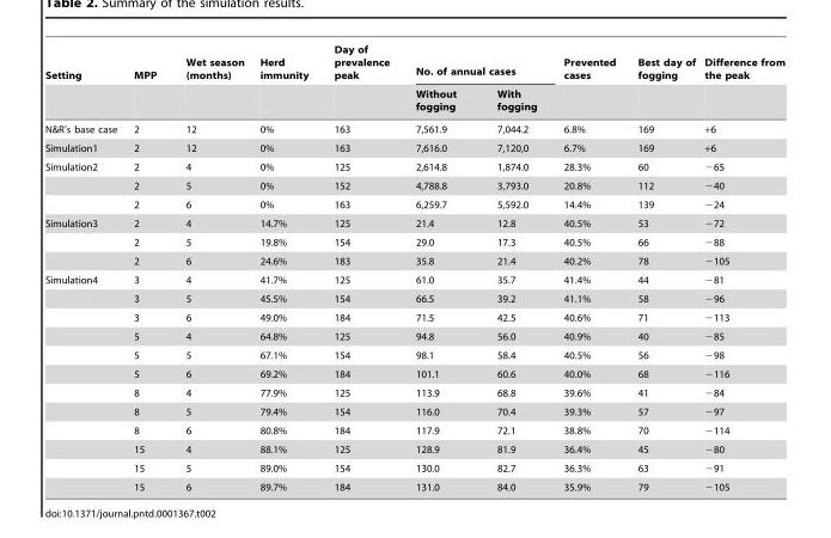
<table><thead><tr><td rowspan="2">Setting</td><td rowspan="2">MPP</td><td rowspan="2">Wet season (months)</td><td rowspan="2">Herd immunity</td><td rowspan="2">Day of prevalence peak</td><td colspan="2">No. of annual cases</td><td rowspan="2">Prevented cases</td><td rowspan="2">Best day of fogging</td><td rowspan="2">Difference from the peak</td></tr><tr><td>Without fogging</td><td>With fogging</td></tr></thead><tbody><tr><td>N&amp;R’s base case</td><td>2</td><td>12</td><td>0%</td><td>163</td><td>7,561.9</td><td>7,044.2</td><td>6.8%</td><td>169</td><td>+6</td></tr><tr><td>Simulation1</td><td>2</td><td>12</td><td>0%</td><td>163</td><td>7,616.0</td><td>7,120,0</td><td>6.7%</td><td>169</td><td>+6</td></tr><tr><td rowspan="3">Simulation2</td><td>2</td><td>4</td><td>0%</td><td>125</td><td>2,614.8</td><td>1,874.0</td><td>28.3%</td><td>60</td><td>−65</td></tr><tr><td>2</td><td>5</td><td>0%</td><td>152</td><td>4,788.8</td><td>3,793.0</td><td>20.8%</td><td>112</td><td>−40</td></tr><tr><td>2</td><td>6</td><td>0%</td><td>163</td><td>6,259.7</td><td>5,592.0</td><td>14.4%</td><td>139</td><td>−24</td></tr><tr><td rowspan="3">Simulation3</td><td>2</td><td>4</td><td>14.7%</td><td>125</td><td>21.4</td><td>12.8</td><td>40.5%</td><td>53</td><td>−72</td></tr><tr><td>2</td><td>5</td><td>19.8%</td><td>154</td><td>29.0</td><td>17.3</td><td>40.5%</td><td>66</td><td>−88</td></tr><tr><td>2</td><td>6</td><td>24.6%</td><td>183</td><td>35.8</td><td>21.4</td><td>40.2%</td><td>78</td><td>−105</td></tr><tr><td rowspan="12">Simulation4</td><td>3</td><td>4</td><td>41.7%</td><td>125</td><td>61.0</td><td>35.7</td><td>41.4%</td><td>44</td><td>−81</td></tr><tr><td>3</td><td>5</td><td>45.5%</td><td>154</td><td>66.5</td><td>39.2</td><td>41.1%</td><td>58</td><td>−96</td></tr><tr><td>3</td><td>6</td><td>49.0%</td><td>184</td><td>71.5</td><td>42.5</td><td>40.6%</td><td>71</td><td>−113</td></tr><tr><td>5</td><td>4</td><td>64.8%</td><td>125</td><td>94.8</td><td>56.0</td><td>40.9%</td><td>40</td><td>−85</td></tr><tr><td>5</td><td>5</td><td>67.1%</td><td>154</td><td>98.1</td><td>58.4</td><td>40.5%</td><td>56</td><td>−98</td></tr><tr><td>5</td><td>6</td><td>69.2%</td><td>184</td><td>101.1</td><td>60.6</td><td>40.0%</td><td>68</td><td>−116</td></tr><tr><td>8</td><td>4</td><td>77.9%</td><td>125</td><td>113.9</td><td>68.8</td><td>39.6%</td><td>41</td><td>−84</td></tr><tr><td>8</td><td>5</td><td>79.4%</td><td>154</td><td>116.0</td><td>70.4</td><td>39.3%</td><td>57</td><td>−97</td></tr><tr><td>8</td><td>6</td><td>80.8%</td><td>184</td><td>117.9</td><td>72.1</td><td>38.8%</td><td>70</td><td>−114</td></tr><tr><td>15</td><td>4</td><td>88.1%</td><td>125</td><td>128.9</td><td>81.9</td><td>36.4%</td><td>45</td><td>−80</td></tr><tr><td>15</td><td>5</td><td>89.0%</td><td>154</td><td>130.0</td><td>82.7</td><td>36.3%</td><td>63</td><td>−91</td></tr><tr><td>15</td><td>6</td><td>89.7%</td><td>184</td><td>131.0</td><td>84.0</td><td>35.9%</td><td>79</td><td>−105</td></tr></tbody></table>